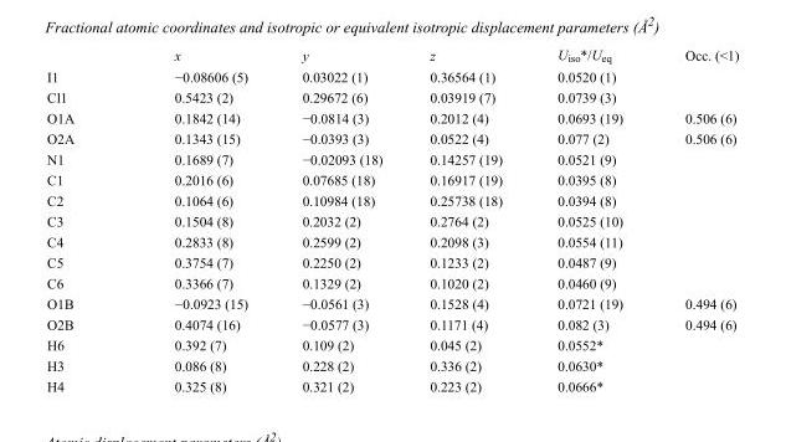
<table><thead><tr><td></td><td>x</td><td>y</td><td>z</td><td>U<sub>iso</sub>*/U<sub>eq</sub></td><td>Occ. (&lt;1)</td></tr></thead><tbody><tr><td>I1</td><td>−0.08606 (5)</td><td>0.03022 (1)</td><td>0.36564 (1)</td><td>0.0520 (1)</td><td></td></tr><tr><td>Cl1</td><td>0.5423 (2)</td><td>0.29672 (6)</td><td>0.03919 (7)</td><td>0.0739 (3)</td><td></td></tr><tr><td>O1A</td><td>0.1842 (14)</td><td>−0.0814 (3)</td><td>0.2012 (4)</td><td>0.0693 (19)</td><td>0.506 (6)</td></tr><tr><td>O2A</td><td>0.1343 (15)</td><td>−0.0393 (3)</td><td>0.0522 (4)</td><td>0.077 (2)</td><td>0.506 (6)</td></tr><tr><td>N1</td><td>0.1689 (7)</td><td>−0.02093 (18)</td><td>0.14257 (19)</td><td>0.0521 (9)</td><td></td></tr><tr><td>C1</td><td>0.2016 (6)</td><td>0.07685 (18)</td><td>0.16917 (19)</td><td>0.0395 (8)</td><td></td></tr><tr><td>C2</td><td>0.1064 (6)</td><td>0.10984 (18)</td><td>0.25738 (18)</td><td>0.0394 (8)</td><td></td></tr><tr><td>C3</td><td>0.1504 (8)</td><td>0.2032 (2)</td><td>0.2764 (2)</td><td>0.0525 (10)</td><td></td></tr><tr><td>C4</td><td>0.2833 (8)</td><td>0.2599 (2)</td><td>0.2098 (3)</td><td>0.0554 (11)</td><td></td></tr><tr><td>C5</td><td>0.3754 (7)</td><td>0.2250 (2)</td><td>0.1233 (2)</td><td>0.0487 (9)</td><td></td></tr><tr><td>C6</td><td>0.3366 (7)</td><td>0.1329 (2)</td><td>0.1020 (2)</td><td>0.0460 (9)</td><td></td></tr><tr><td>O1B</td><td>−0.0923 (15)</td><td>−0.0561 (3)</td><td>0.1528 (4)</td><td>0.0721 (19)</td><td>0.494 (6)</td></tr><tr><td>O2B</td><td>0.4074 (16)</td><td>−0.0577 (3)</td><td>0.1171 (4)</td><td>0.082 (3)</td><td>0.494 (6)</td></tr><tr><td>H6</td><td>0.392 (7)</td><td>0.109 (2)</td><td>0.045 (2)</td><td>0.0552*</td><td></td></tr><tr><td>H3</td><td>0.086 (8)</td><td>0.228 (2)</td><td>0.336 (2)</td><td>0.0630*</td><td></td></tr><tr><td>H4</td><td>0.325 (8)</td><td>0.321 (2)</td><td>0.223 (2)</td><td>0.0666*</td><td></td></tr></tbody></table>